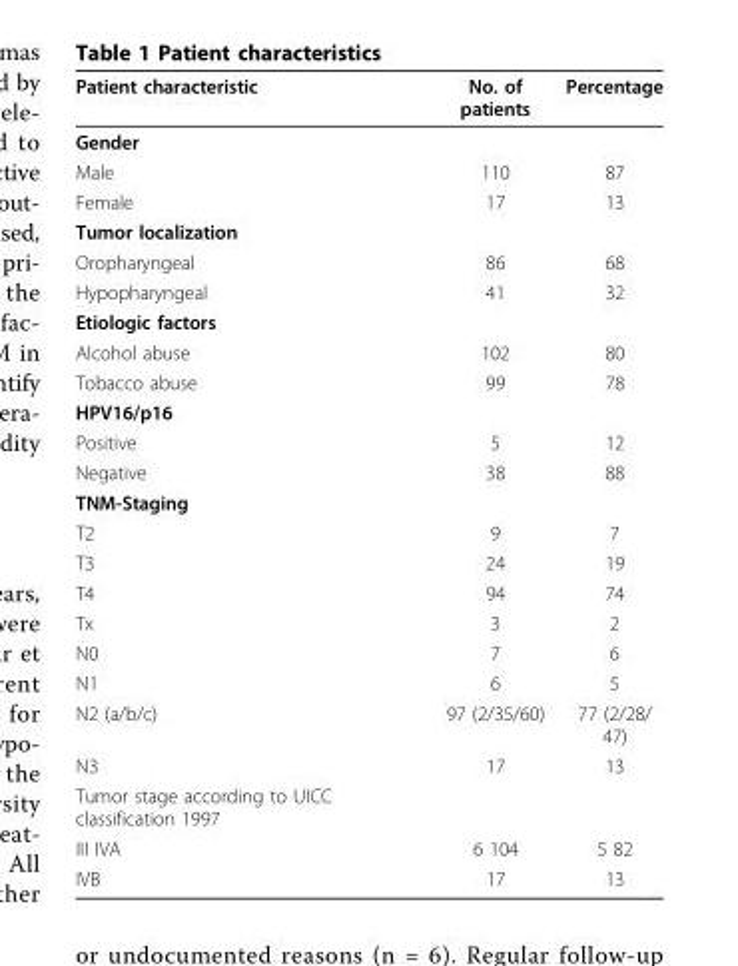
<table><thead><tr><td>Patient characteristic</td><td>No. of patients</td><td>Percentage</td></tr></thead><tbody><tr><td colspan="3">Gender</td></tr><tr><td>Male</td><td>110</td><td>87</td></tr><tr><td>Female</td><td>17</td><td>13</td></tr><tr><td colspan="3">Tumor localization</td></tr><tr><td>Oropharyngeal</td><td>86</td><td>68</td></tr><tr><td>Hypopharyngeal</td><td>41</td><td>32</td></tr><tr><td colspan="3">Etiologic factors</td></tr><tr><td>Alcohol abuse</td><td>102</td><td>80</td></tr><tr><td>Tobacco abuse</td><td>99</td><td>78</td></tr><tr><td colspan="3">HPV16/p16</td></tr><tr><td>Positive</td><td>5</td><td>12</td></tr><tr><td>Negative</td><td>38</td><td>88</td></tr><tr><td colspan="3">TNM-Staging</td></tr><tr><td>T2</td><td>9</td><td>7</td></tr><tr><td>T3</td><td>24</td><td>19</td></tr><tr><td>T4</td><td>94</td><td>74</td></tr><tr><td>Tx</td><td>3</td><td>2</td></tr><tr><td>N0</td><td>7</td><td>6</td></tr><tr><td>N1</td><td>6</td><td>5</td></tr><tr><td>N2 (a/b/c)</td><td>97 (2/35/60)</td><td>77 (2/28/ 47)</td></tr><tr><td>N3</td><td>17</td><td>13</td></tr><tr><td colspan="3">Tumor stage according to UICC classification 1997</td></tr><tr><td>III IVA</td><td>6 104</td><td>5 82</td></tr><tr><td>IVB</td><td>17</td><td>13</td></tr></tbody></table>